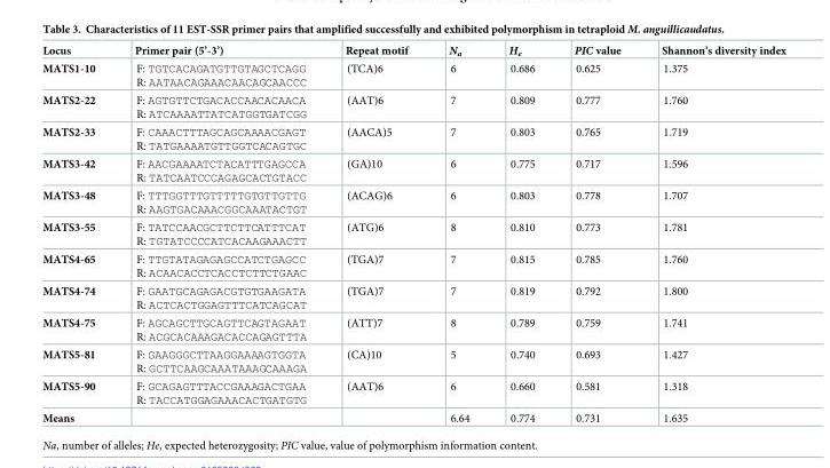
<table><thead><tr><td>Locus</td><td>Primer pair (5’-3’)</td><td>Repeat motif</td><td>N<sub>a</sub></td><td>H<sub>e</sub></td><td>PIC value</td><td>Shannon’s diversity index</td></tr></thead><tbody><tr><td>MATS1-10</td><td>F: TGTCACAGATGTTGTAGCTCAGG R: AATAACAGAAACAACAGCAACCC</td><td>(TCA)6</td><td>6</td><td>0.686</td><td>0.625</td><td>1.375</td></tr><tr><td>MATS2-22</td><td>F: AGTGTTCTGACACCAACACAACA R: ATCAAAATTATCATGGTGATCGG</td><td>(AAT)6</td><td>7</td><td>0.809</td><td>0.777</td><td>1.760</td></tr><tr><td>MATS2-33</td><td>F: CAAACTTTAGCAGCAAAACGAGT R: TATGAAAATGTTGGTCACAGTGC</td><td>(AACA)5</td><td>7</td><td>0.803</td><td>0.765</td><td>1.719</td></tr><tr><td>MATS3-42</td><td>F: AACGAAAATCTACATTTGAGCCA R: TATCAATCCCAGAGCACTGTACC</td><td>(GA)10</td><td>6</td><td>0.775</td><td>0.717</td><td>1.596</td></tr><tr><td>MATS3-48</td><td>F: TTTGGTTTGTTTTTGTGTTGTTG R: AAGTGACAAACGGCAAATACTGT</td><td>(ACAG)6</td><td>6</td><td>0.803</td><td>0.778</td><td>1.707</td></tr><tr><td>MATS3-55</td><td>F: TATCCAACGCTTCTTCATTTCAT R: TGTATCCCCATCACAAGAAACTT</td><td>(ATG)6</td><td>8</td><td>0.810</td><td>0.773</td><td>1.781</td></tr><tr><td>MATS4-65</td><td>F: TTGTATAGAGAGCCATCTGAGCC R: ACAACACCTCACCTCTTCTGAAC</td><td>(TGA)7</td><td>7</td><td>0.815</td><td>0.785</td><td>1.760</td></tr><tr><td>MATS4-74</td><td>F: GAATGCAGAGACGTGTGAAGATA R: ACTCACTGGAGTTTCATCAGCAT</td><td>(TGA)7</td><td>7</td><td>0.819</td><td>0.792</td><td>1.800</td></tr><tr><td>MATS4-75</td><td>F: AGCAGCTTGCAGTTCAGTAGAAT R: ACGCACAAAGACACCAGAGTTTA</td><td>(ATT)7</td><td>8</td><td>0.789</td><td>0.759</td><td>1.741</td></tr><tr><td>MATS5-81</td><td>F: GAAGGGCTTAAGGAAAAGTGGTA R: GCTTCAAGCAAATAAAGCAAAGA</td><td>(CA)10</td><td>5</td><td>0.740</td><td>0.693</td><td>1.427</td></tr><tr><td>MATS5-90</td><td>F: GCAGAGTTTACCGAAAGACTGAA R: TACCATGGAGAAACACTGATGTG</td><td>(AAT)6</td><td>6</td><td>0.660</td><td>0.581</td><td>1.318</td></tr><tr><td>Means</td><td></td><td></td><td>6.64</td><td>0.774</td><td>0.731</td><td>1.635</td></tr></tbody></table>